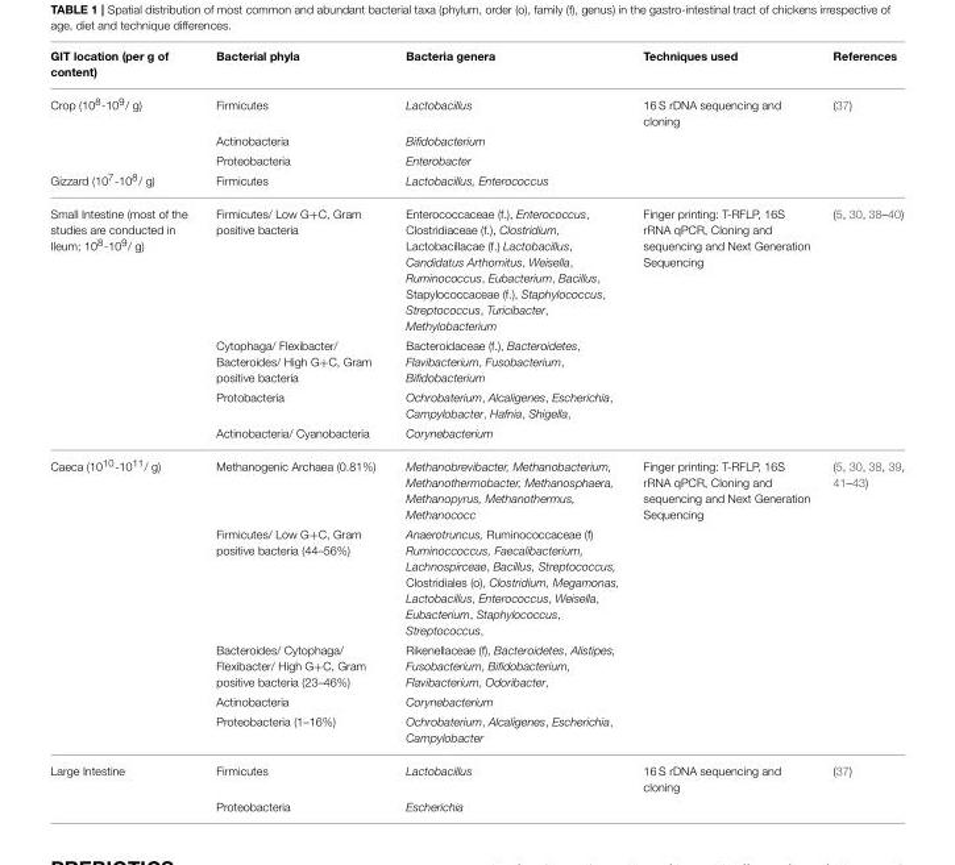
<table><thead><tr><td>GIT location (per g of content)</td><td>Bacterial phyla</td><td>Bacteria genera</td><td>Techniques used</td><td>References</td></tr></thead><tbody><tr><td rowspan="3">Crop (10<sup>8</sup>-10<sup>9</sup>/ g)</td><td>Firmicutes</td><td>Lactobacillus</td><td>16 S rDNA sequencing and cloning</td><td>(37)</td></tr><tr><td>Actinobacteria</td><td>Bifidobacterium</td><td></td><td></td></tr><tr><td>Proteobacteria</td><td>Enterobacter</td><td></td><td></td></tr><tr><td>Gizzard (10<sup>7</sup>-10<sup>8</sup>/ g)</td><td>Firmicutes</td><td>Lactobacillus, Enterococcus</td><td></td><td></td></tr><tr><td rowspan="4">Small Intestine (most of the studies are conducted in Ileum; 10<sup>8</sup>-10<sup>9</sup>/ g)</td><td>Firmicutes/ Low G+C, Gram positive bacteria</td><td>Enterococcaceae (f.), Enterococcus, Clostridiaceae (f.), Clostridium, Lactobacillacae (f.) Lactobacillus, Candidatus Arthomitus, Weisella, Ruminococcus, Eubacterium, Bacillus, Stapylococcaceae (f.), Staphylococcus, Streptococcus, Turicibacter, Methylobacterium</td><td>Finger printing: T-RFLP, 16S rRNA qPCR, Cloning and sequencing and Next Generation Sequencing</td><td>(5, 30, 38–40)</td></tr><tr><td>Cytophaga/ Flexibacter/ Bacteroides/ High G+C, Gram positive bacteria</td><td>Bacteroidaceae (f.), Bacteroidetes, Flavibacterium, Fusobacterium, Bifidobacterium</td><td></td><td></td></tr><tr><td>Protobacteria</td><td>Ochrobaterium, Alcaligenes, Escherichia, Campylobacter, Hafnia, Shigella,</td><td></td><td></td></tr><tr><td>Actinobacteria/ Cyanobacteria</td><td>Corynebacterium</td><td></td><td></td></tr><tr><td rowspan="5">Caeca (10<sup>10</sup>-10<sup>11</sup>/ g)</td><td>Methanogenic Archaea (0.81%)</td><td>Methanobrevibacter, Methanobacterium, Methanothermobacter, Methanosphaera, Methanopyrus, Methanothermus, Methanococc</td><td>Finger printing: T-RFLP, 16S rRNA qPCR, Cloning and sequencing and Next Generation Sequencing</td><td>(5, 30, 38, 39, 41–43)</td></tr><tr><td>Firmicutes/ Low G+C, Gram positive bacteria (44–56%)</td><td>Anaerotruncus, Ruminococcaceae (f) Ruminoccoccus, Faecalibacterium, Lachnospirceae, Bacillus, Streptococcus, Clostridiales (o), Clostridium, Megamonas, Lactobacillus, Enterococcus, Weisella, Eubacterium, Staphylococcus, Streptococcus,</td><td></td><td></td></tr><tr><td>Bacteroides/ Cytophaga/ Flexibacter/ High G+C, Gram positive bacteria (23–46%)</td><td>Rikenellaceae (f), Bacteroidetes, Alistipes, Fusobacterium, Bifidobacterium, Flavibacterium, Odoribacter,</td><td></td><td></td></tr><tr><td>Actinobacteria</td><td>Corynebacterium</td><td></td><td></td></tr><tr><td>Proteobacteria (1–16%)</td><td>Ochrobaterium, Alcaligenes, Escherichia, Campylobacter</td><td></td><td></td></tr><tr><td rowspan="2">Large Intestine</td><td>Firmicutes</td><td>Lactobacillus</td><td>16 S rDNA sequencing and cloning</td><td>(37)</td></tr><tr><td>Proteobacteria</td><td>Escherichia</td><td></td><td></td></tr></tbody></table>